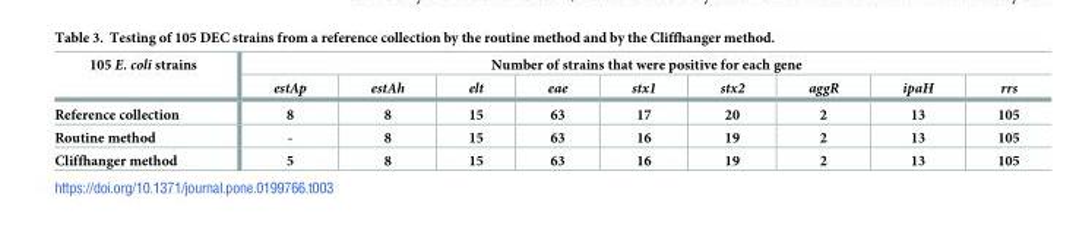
<table><thead><tr><td rowspan="2">105 E. coli strains</td><td colspan="9">Number of strains that were positive for each gene</td></tr><tr><td>estAp</td><td>estAh</td><td>elt</td><td>eae</td><td>stx1</td><td>stx2</td><td>aggR</td><td>ipaH</td><td>rrs</td></tr></thead><tbody><tr><td>Reference collection</td><td>8</td><td>8</td><td>15</td><td>63</td><td>17</td><td>20</td><td>2</td><td>13</td><td>105</td></tr><tr><td>Routine method</td><td>-</td><td>8</td><td>15</td><td>63</td><td>16</td><td>19</td><td>2</td><td>13</td><td>105</td></tr><tr><td>Cliffhanger method</td><td>5</td><td>8</td><td>15</td><td>63</td><td>16</td><td>19</td><td>2</td><td>13</td><td>105</td></tr></tbody></table>